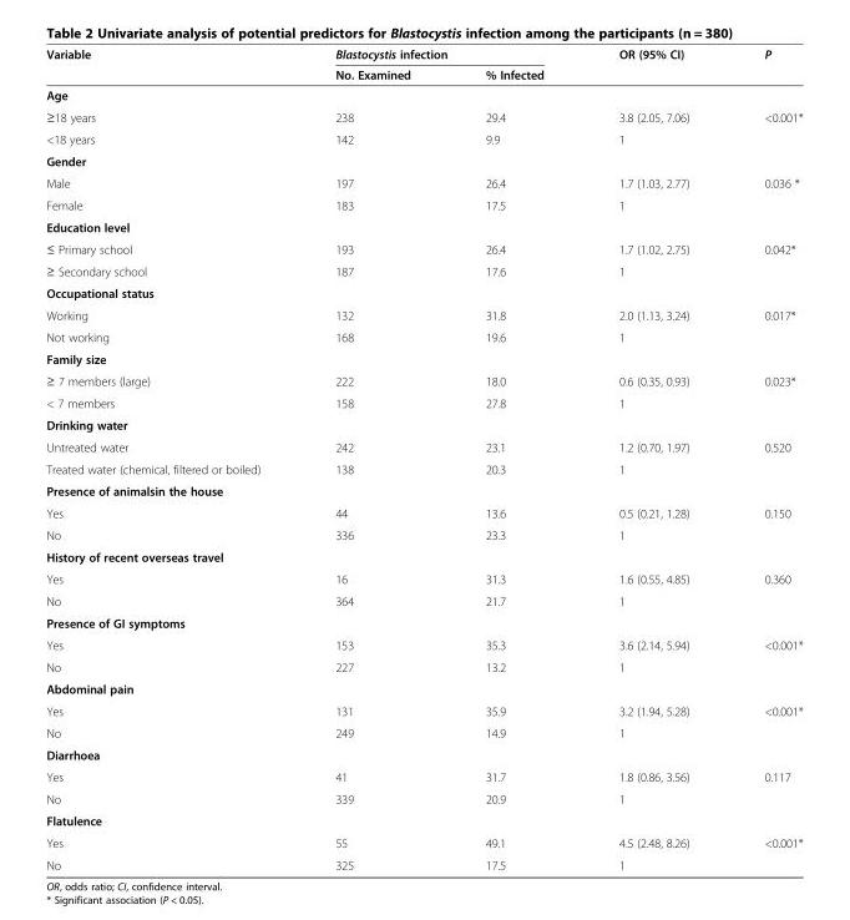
<table><thead><tr><td rowspan="2">Variable</td><td colspan="2">Blastocystis infection</td><td rowspan="2">OR (95% CI)</td><td rowspan="2">P</td></tr><tr><td>No. Examined</td><td>% Infected</td></tr></thead><tbody><tr><td colspan="5">Age</td></tr><tr><td>≥18 years</td><td>238</td><td>29.4</td><td>3.8 (2.05, 7.06)</td><td>&lt;0.001*</td></tr><tr><td>&lt;18 years</td><td>142</td><td>9.9</td><td>1</td><td></td></tr><tr><td colspan="5">Gender</td></tr><tr><td>Male</td><td>197</td><td>26.4</td><td>1.7 (1.03, 2.77)</td><td>0.036 *</td></tr><tr><td>Female</td><td>183</td><td>17.5</td><td>1</td><td></td></tr><tr><td colspan="5">Education level</td></tr><tr><td>≤ Primary school</td><td>193</td><td>26.4</td><td>1.7 (1.02, 2.75)</td><td>0.042*</td></tr><tr><td>≥ Secondary school</td><td>187</td><td>17.6</td><td>1</td><td></td></tr><tr><td colspan="5">Occupational status</td></tr><tr><td>Working</td><td>132</td><td>31.8</td><td>2.0 (1.13, 3.24)</td><td>0.017*</td></tr><tr><td>Not working</td><td>168</td><td>19.6</td><td>1</td><td></td></tr><tr><td colspan="5">Family size</td></tr><tr><td>≥ 7 members (large)</td><td>222</td><td>18.0</td><td>0.6 (0.35, 0.93)</td><td>0.023*</td></tr><tr><td>&lt; 7 members</td><td>158</td><td>27.8</td><td>1</td><td></td></tr><tr><td colspan="5">Drinking water</td></tr><tr><td>Untreated water</td><td>242</td><td>23.1</td><td>1.2 (0.70, 1.97)</td><td>0.520</td></tr><tr><td>Treated water (chemical, filtered or boiled)</td><td>138</td><td>20.3</td><td>1</td><td></td></tr><tr><td colspan="5">Presence of animalsin the house</td></tr><tr><td>Yes</td><td>44</td><td>13.6</td><td>0.5 (0.21, 1.28)</td><td>0.150</td></tr><tr><td>No</td><td>336</td><td>23.3</td><td>1</td><td></td></tr><tr><td colspan="5">History of recent overseas travel</td></tr><tr><td>Yes</td><td>16</td><td>31.3</td><td>1.6 (0.55, 4.85)</td><td>0.360</td></tr><tr><td>No</td><td>364</td><td>21.7</td><td>1</td><td></td></tr><tr><td colspan="5">Presence of GI symptoms</td></tr><tr><td>Yes</td><td>153</td><td>35.3</td><td>3.6 (2.14, 5.94)</td><td>&lt;0.001*</td></tr><tr><td>No</td><td>227</td><td>13.2</td><td>1</td><td></td></tr><tr><td colspan="5">Abdominal pain</td></tr><tr><td>Yes</td><td>131</td><td>35.9</td><td>3.2 (1.94, 5.28)</td><td>&lt;0.001*</td></tr><tr><td>No</td><td>249</td><td>14.9</td><td>1</td><td></td></tr><tr><td colspan="5">Diarrhoea</td></tr><tr><td>Yes</td><td>41</td><td>31.7</td><td>1.8 (0.86, 3.56)</td><td>0.117</td></tr><tr><td>No</td><td>339</td><td>20.9</td><td>1</td><td></td></tr><tr><td colspan="5">Flatulence</td></tr><tr><td>Yes</td><td>55</td><td>49.1</td><td>4.5 (2.48, 8.26)</td><td>&lt;0.001*</td></tr><tr><td>No</td><td>325</td><td>17.5</td><td>1</td><td></td></tr></tbody></table>